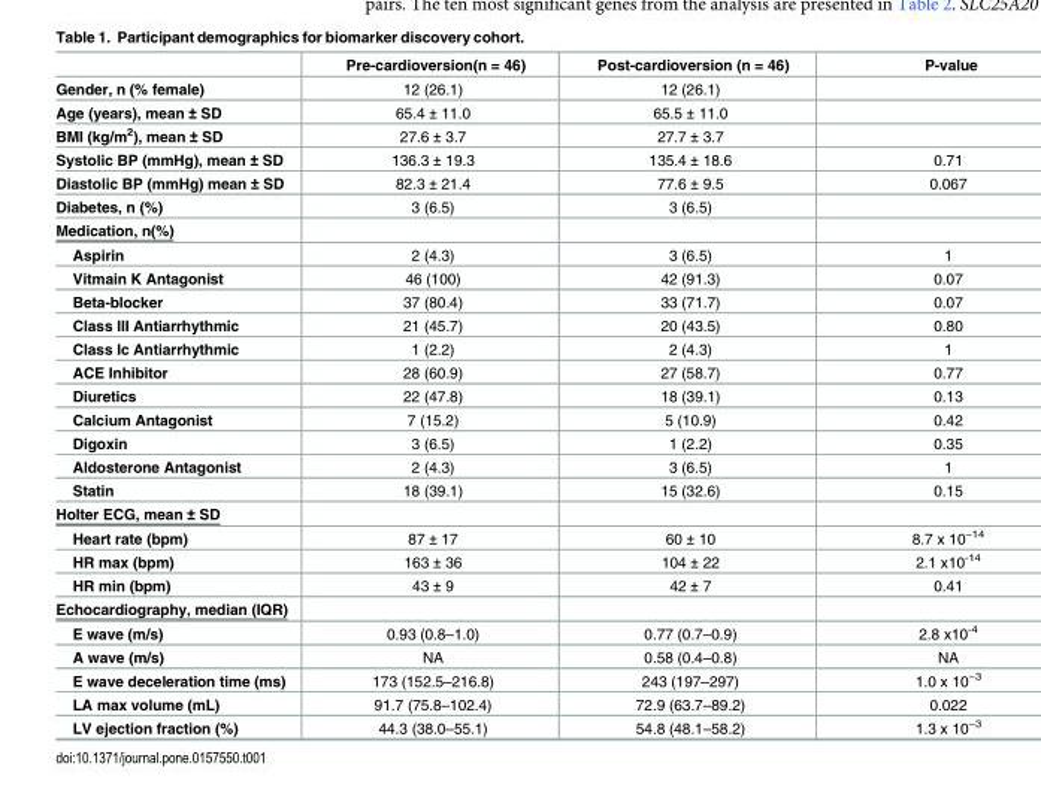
<table><thead><tr><td></td><td>Pre-cardioversion(n = 46)</td><td>Post-cardioversion (n = 46)</td><td>P-value</td></tr></thead><tbody><tr><td>Gender, n (% female)</td><td>12 (26.1)</td><td>12 (26.1)</td><td></td></tr><tr><td>Age (years), mean ± SD</td><td>65.4 ± 11.0</td><td>65.5 ± 11.0</td><td></td></tr><tr><td>BMI (kg/m<sup>2</sup>), mean ± SD</td><td>27.6 ± 3.7</td><td>27.7 ± 3.7</td><td></td></tr><tr><td>Systolic BP (mmHg), mean ± SD</td><td>136.3 ± 19.3</td><td>135.4 ± 18.6</td><td>0.71</td></tr><tr><td>Diastolic BP (mmHg) mean ± SD</td><td>82.3 ± 21.4</td><td>77.6 ± 9.5</td><td>0.067</td></tr><tr><td>Diabetes, n (%)</td><td>3 (6.5)</td><td>3 (6.5)</td><td></td></tr><tr><td colspan="4">Medication, n(%)</td></tr><tr><td>Aspirin</td><td>2 (4.3)</td><td>3 (6.5)</td><td>1</td></tr><tr><td>Vitmain K Antagonist</td><td>46 (100)</td><td>42 (91.3)</td><td>0.07</td></tr><tr><td>Beta-blocker</td><td>37 (80.4)</td><td>33 (71.7)</td><td>0.07</td></tr><tr><td>Class III Antiarrhythmic</td><td>21 (45.7)</td><td>20 (43.5)</td><td>0.80</td></tr><tr><td>Class Ic Antiarrhythmic</td><td>1 (2.2)</td><td>2 (4.3)</td><td>1</td></tr><tr><td>ACE Inhibitor</td><td>28 (60.9)</td><td>27 (58.7)</td><td>0.77</td></tr><tr><td>Diuretics</td><td>22 (47.8)</td><td>18 (39.1)</td><td>0.13</td></tr><tr><td>Calcium Antagonist</td><td>7 (15.2)</td><td>5 (10.9)</td><td>0.42</td></tr><tr><td>Digoxin</td><td>3 (6.5)</td><td>1 (2.2)</td><td>0.35</td></tr><tr><td>Aldosterone Antagonist</td><td>2 (4.3)</td><td>3 (6.5)</td><td>1</td></tr><tr><td>Statin</td><td>18 (39.1)</td><td>15 (32.6)</td><td>0.15</td></tr><tr><td colspan="4">Holter ECG, mean ± SD</td></tr><tr><td>Heart rate (bpm)</td><td>87 ± 17</td><td>60 ± 10</td><td>8.7 x 10<sup>−14</sup></td></tr><tr><td>HR max (bpm)</td><td>163 ± 36</td><td>104 ± 22</td><td>2.1 x10<sup>-14</sup></td></tr><tr><td>HR min (bpm)</td><td>43 ± 9</td><td>42 ± 7</td><td>0.41</td></tr><tr><td colspan="4">Echocardiography, median (IQR)</td></tr><tr><td>E wave (m/s)</td><td>0.93 (0.8–1.0)</td><td>0.77 (0.7–0.9)</td><td>2.8 x10<sup>-4</sup></td></tr><tr><td>A wave (m/s)</td><td>NA</td><td>0.58 (0.4–0.8)</td><td>NA</td></tr><tr><td>E wave deceleration time (ms)</td><td>173 (152.5–216.8)</td><td>243 (197–297)</td><td>1.0 x 10<sup>−3</sup></td></tr><tr><td>LA max volume (mL)</td><td>91.7 (75.8–102.4)</td><td>72.9 (63.7–89.2)</td><td>0.022</td></tr><tr><td>LV ejection fraction (%)</td><td>44.3 (38.0–55.1)</td><td>54.8 (48.1–58.2)</td><td>1.3 x 10<sup>−3</sup></td></tr></tbody></table>